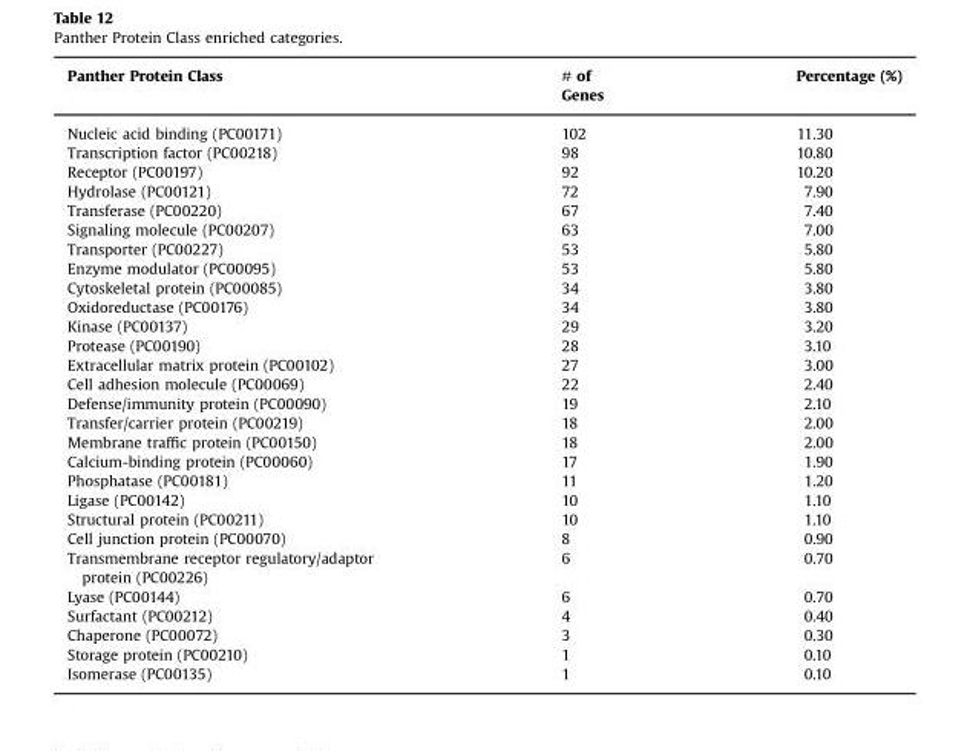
<table><thead><tr><td>Panther Protein Class</td><td># of Genes</td><td>Percentage (%)</td></tr></thead><tbody><tr><td>Nucleic acid binding (PC00171)</td><td>102</td><td>11.30</td></tr><tr><td>Transcription factor (PC00218)</td><td>98</td><td>10.80</td></tr><tr><td>Receptor (PC00197)</td><td>92</td><td>10.20</td></tr><tr><td>Hydrolase (PC00121)</td><td>72</td><td>7.90</td></tr><tr><td>Transferase (PC00220)</td><td>67</td><td>7.40</td></tr><tr><td>Signaling molecule (PC00207)</td><td>63</td><td>7.00</td></tr><tr><td>Transporter (PC00227)</td><td>53</td><td>5.80</td></tr><tr><td>Enzyme modulator (PC00095)</td><td>53</td><td>5.80</td></tr><tr><td>Cytoskeletal protein (PC00085)</td><td>34</td><td>3.80</td></tr><tr><td>Oxidoreductase (PC00176)</td><td>34</td><td>3.80</td></tr><tr><td>Kinase (PC00137)</td><td>29</td><td>3.20</td></tr><tr><td>Protease (PC00190)</td><td>28</td><td>3.10</td></tr><tr><td>Extracellular matrix protein (PC00102)</td><td>27</td><td>3.00</td></tr><tr><td>Cell adhesion molecule (PC00069)</td><td>22</td><td>2.40</td></tr><tr><td>Defense/immunity protein (PC00090)</td><td>19</td><td>2.10</td></tr><tr><td>Transfer/carrier protein (PC00219)</td><td>18</td><td>2.00</td></tr><tr><td>Membrane traffic protein (PC00150)</td><td>18</td><td>2.00</td></tr><tr><td>Calcium-binding protein (PC00060)</td><td>17</td><td>1.90</td></tr><tr><td>Phosphatase (PC00181)</td><td>11</td><td>1.20</td></tr><tr><td>Ligase (PC00142)</td><td>10</td><td>1.10</td></tr><tr><td>Structural protein (PC00211)</td><td>10</td><td>1.10</td></tr><tr><td>Cell junction protein (PC00070)</td><td>8</td><td>0.90</td></tr><tr><td>Transmembrane receptor regulatory/adaptor protein (PC00226)</td><td>6</td><td>0.70</td></tr><tr><td>Lyase (PC00144)</td><td>6</td><td>0.70</td></tr><tr><td>Surfactant (PC00212)</td><td>4</td><td>0.40</td></tr><tr><td>Chaperone (PC00072)</td><td>3</td><td>0.30</td></tr><tr><td>Storage protein (PC00210)</td><td>1</td><td>0.10</td></tr><tr><td>Isomerase (PC00135)</td><td>1</td><td>0.10</td></tr></tbody></table>